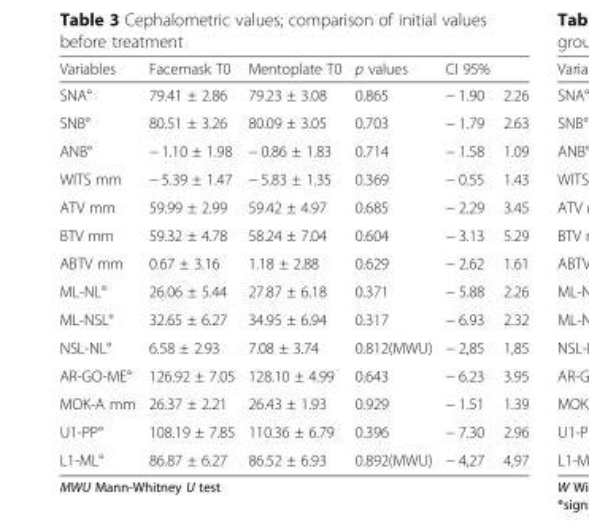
<table><thead><tr><td>Variables</td><td>Facemask T0</td><td>Mentoplate T0</td><td>p values</td><td>CI 95%</td><td></td></tr></thead><tbody><tr><td>SNA°</td><td>79.41 ± 2.86</td><td>79.23 ± 3.08</td><td>0.865</td><td>− 1.90</td><td>2.26</td></tr><tr><td>SNB°</td><td>80.51 ± 3.26</td><td>80.09 ± 3.05</td><td>0.703</td><td>− 1.79</td><td>2.63</td></tr><tr><td>ANB°</td><td>− 1.10 ± 1.98</td><td>− 0.86 ± 1.83</td><td>0.714</td><td>− 1.58</td><td>1.09</td></tr><tr><td>WITS mm</td><td>− 5.39 ± 1.47</td><td>− 5.83 ± 1.35</td><td>0.369</td><td>− 0.55</td><td>1.43</td></tr><tr><td>ATV mm</td><td>59.99 ± 2.99</td><td>59.42 ± 4.97</td><td>0.685</td><td>− 2.29</td><td>3.45</td></tr><tr><td>BTV mm</td><td>59.32 ± 4.78</td><td>58.24 ± 7.04</td><td>0.604</td><td>− 3.13</td><td>5.29</td></tr><tr><td>ABTV mm</td><td>0.67 ± 3.16</td><td>1.18 ± 2.88</td><td>0.629</td><td>− 2.62</td><td>1.61</td></tr><tr><td>ML-NL°</td><td>26.06 ± 5.44</td><td>27.87 ± 6.18</td><td>0.371</td><td>− 5.88</td><td>2.26</td></tr><tr><td>ML-NSL°</td><td>32.65 ± 6.27</td><td>34.95 ± 6.94</td><td>0.317</td><td>− 6.93</td><td>2.32</td></tr><tr><td>NSL-NL°</td><td>6.58 ± 2.93</td><td>7.08 ± 3.74</td><td>0.812(MWU)</td><td>− 2,85</td><td>1,85</td></tr><tr><td>AR-GO-ME°</td><td>126.92 ± 7.05</td><td>128.10 ± 4.99</td><td>0.643</td><td>− 6.23</td><td>3.95</td></tr><tr><td>MOK-A mm</td><td>26.37 ± 2.21</td><td>26.43 ± 1.93</td><td>0.929</td><td>− 1.51</td><td>1.39</td></tr><tr><td>U1-PP°</td><td>108.19 ± 7.85</td><td>110.36 ± 6.79</td><td>0.396</td><td>− 7.30</td><td>2.96</td></tr><tr><td>L1-ML°</td><td>86.87 ± 6.27</td><td>86.52 ± 6.93</td><td>0.892(MWU)</td><td>− 4,27</td><td>4,97</td></tr></tbody></table>